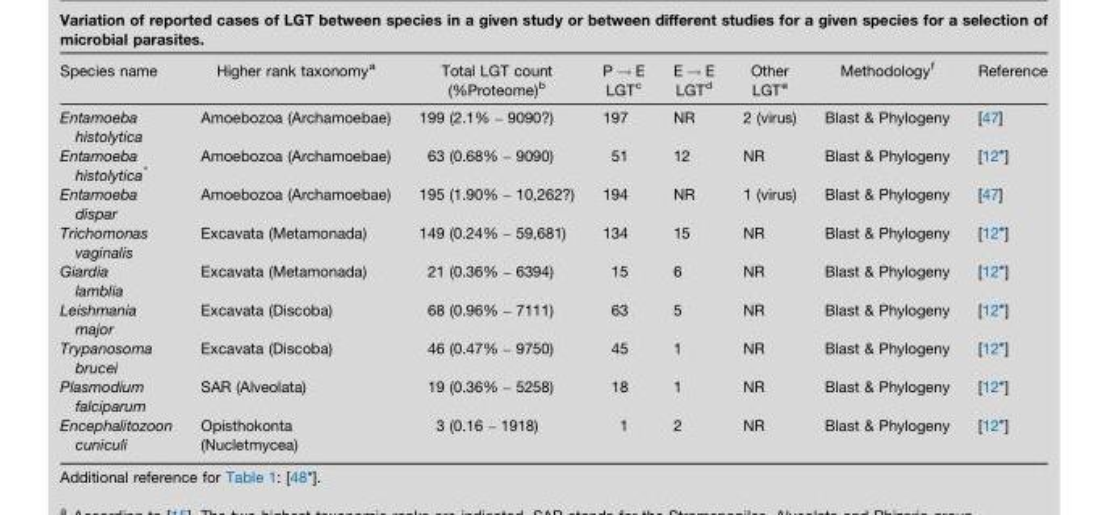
<table><thead><tr><td>Species name</td><td>Higher rank taxonomy<sup>a</sup></td><td>Total LGT count (%Proteome)<sup>b</sup></td><td>P → E LGT<sup>c</sup></td><td>E → E LGT<sup>d</sup></td><td>Other LGT<sup>e</sup></td><td>Methodology<sup>f</sup></td><td>Reference</td></tr></thead><tbody><tr><td>Entamoeba histolytica</td><td>Amoebozoa (Archamoebae)</td><td>199 (2.1% – 9090?)</td><td>197</td><td>NR</td><td>2 (virus)</td><td>Blast &amp; Phylogeny</td><td>[47]</td></tr><tr><td>Entamoeba histolytica*</td><td>Amoebozoa (Archamoebae)</td><td>63 (0.68% – 9090)</td><td>51</td><td>12</td><td>NR</td><td>Blast &amp; Phylogeny</td><td>[12<sup>•</sup>]</td></tr><tr><td>Entamoeba dispar</td><td>Amoebozoa (Archamoebae)</td><td>195 (1.90% – 10,262?)</td><td>194</td><td>NR</td><td>1 (virus)</td><td>Blast &amp; Phylogeny</td><td>[47]</td></tr><tr><td>Trichomonas vaginalis</td><td>Excavata (Metamonada)</td><td>149 (0.24% – 59,681)</td><td>134</td><td>15</td><td>NR</td><td>Blast &amp; Phylogeny</td><td>[12<sup>•</sup>]</td></tr><tr><td>Giardia lamblia</td><td>Excavata (Metamonada)</td><td>21 (0.36% – 6394)</td><td>15</td><td>6</td><td>NR</td><td>Blast &amp; Phylogeny</td><td>[12<sup>•</sup>]</td></tr><tr><td>Leishmania major</td><td>Excavata (Discoba)</td><td>68 (0.96% – 7111)</td><td>63</td><td>5</td><td>NR</td><td>Blast &amp; Phylogeny</td><td>[12<sup>•</sup>]</td></tr><tr><td>Trypanosoma brucei</td><td>Excavata (Discoba)</td><td>46 (0.47% – 9750)</td><td>45</td><td>1</td><td>NR</td><td>Blast &amp; Phylogeny</td><td>[12<sup>•</sup>]</td></tr><tr><td>Plasmodium falciparum</td><td>SAR (Alveolata)</td><td>19 (0.36% – 5258)</td><td>18</td><td>1</td><td>NR</td><td>Blast &amp; Phylogeny</td><td>[12<sup>•</sup>]</td></tr><tr><td>Encephalitozoon cuniculi</td><td>Opisthokonta (Nucletmycea)</td><td>3 (0.16 – 1918)</td><td>1</td><td>2</td><td>NR</td><td>Blast &amp; Phylogeny</td><td>[12<sup>•</sup>]</td></tr></tbody></table>